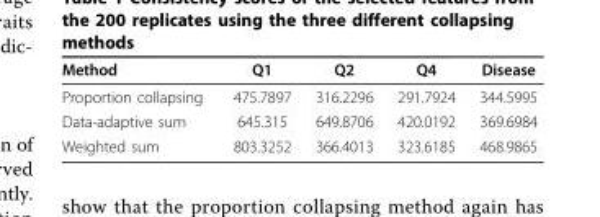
<table><thead><tr><td>Method</td><td>Q1</td><td>Q2</td><td>Q4</td><td>Disease</td></tr></thead><tbody><tr><td>Proportion collapsing</td><td>475.7897</td><td>316.2296</td><td>291.7924</td><td>344.5995</td></tr><tr><td>Data-adaptive sum</td><td>645.315</td><td>649.8706</td><td>420.0192</td><td>369.6984</td></tr><tr><td>Weighted sum</td><td>803.3252</td><td>366.4013</td><td>323.6185</td><td>468.9865</td></tr></tbody></table>